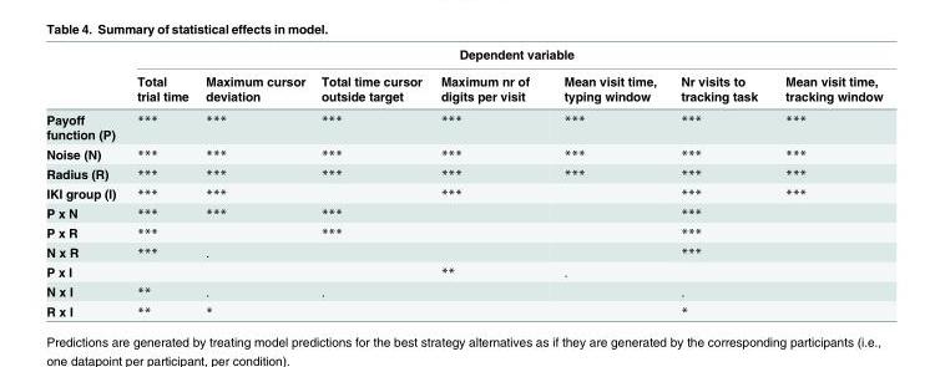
<table><thead><tr><td rowspan="2"></td><td colspan="7">Dependent variable</td></tr><tr><td>Total trial time</td><td>Maximum cursor deviation</td><td>Total time cursor outside target</td><td>Maximum nr of digits per visit</td><td>Mean visit time, typing window</td><td>Nr visits to tracking task</td><td>Mean visit time, tracking window</td></tr></thead><tbody><tr><td>Payoff function (P)</td><td>***</td><td>***</td><td>***</td><td>***</td><td>***</td><td>***</td><td>***</td></tr><tr><td>Noise (N)</td><td>***</td><td>***</td><td>***</td><td>***</td><td>***</td><td>***</td><td>***</td></tr><tr><td>Radius (R)</td><td>***</td><td>***</td><td>***</td><td>***</td><td>***</td><td>***</td><td>***</td></tr><tr><td>IKI group (I)</td><td>***</td><td>***</td><td></td><td>***</td><td></td><td>***</td><td>***</td></tr><tr><td>P x N</td><td>***</td><td>***</td><td>***</td><td></td><td></td><td>***</td><td></td></tr><tr><td>P x R</td><td>***</td><td></td><td>***</td><td></td><td></td><td>***</td><td></td></tr><tr><td>N x R</td><td>***</td><td>.</td><td></td><td></td><td></td><td>***</td><td></td></tr><tr><td>P x I</td><td></td><td></td><td></td><td>**</td><td>.</td><td></td><td></td></tr><tr><td>N x I</td><td>**</td><td>.</td><td>.</td><td></td><td></td><td>.</td><td></td></tr><tr><td>R x I</td><td>**</td><td>*</td><td></td><td></td><td></td><td>*</td><td></td></tr></tbody></table>